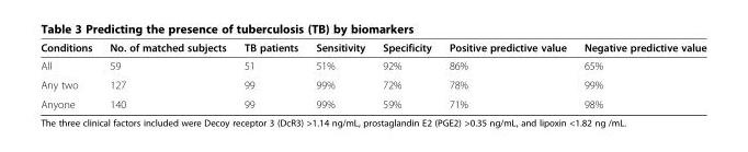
<table><thead><tr><td>Conditions</td><td>No. of matched subjects</td><td>TB patients</td><td>Sensitivity</td><td>Specificity</td><td>Positive predictive value</td><td>Negative predictive value</td></tr></thead><tbody><tr><td>All</td><td>59</td><td>51</td><td>51%</td><td>92%</td><td>86%</td><td>65%</td></tr><tr><td>Any two</td><td>127</td><td>99</td><td>99%</td><td>72%</td><td>78%</td><td>99%</td></tr><tr><td>Anyone</td><td>140</td><td>99</td><td>99%</td><td>59%</td><td>71%</td><td>98%</td></tr></tbody></table>